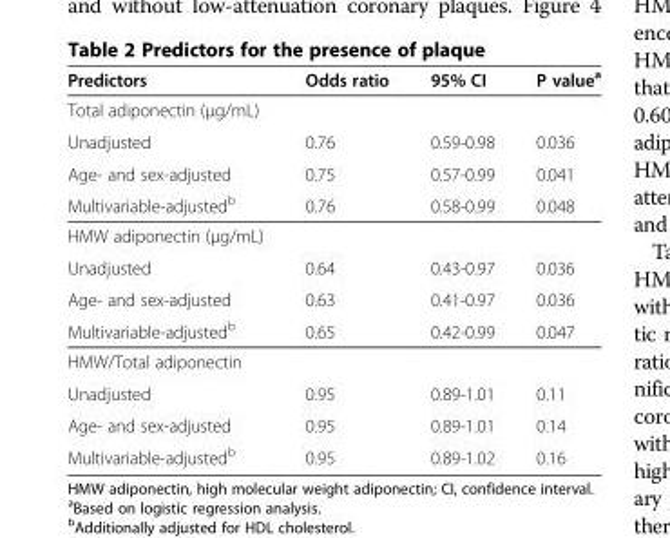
<table><thead><tr><td>Predictors</td><td>Odds ratio</td><td>95% CI</td><td>P value<sup>a</sup></td></tr></thead><tbody><tr><td colspan="4">Total adiponectin (μg/mL)</td></tr><tr><td>Unadjusted</td><td>0.76</td><td>0.59-0.98</td><td>0.036</td></tr><tr><td>Age- and sex-adjusted</td><td>0.75</td><td>0.57-0.99</td><td>0.041</td></tr><tr><td>Multivariable-adjusted<sup>b</sup></td><td>0.76</td><td>0.58-0.99</td><td>0.048</td></tr><tr><td colspan="4">HMW adiponectin (μg/mL)</td></tr><tr><td>Unadjusted</td><td>0.64</td><td>0.43-0.97</td><td>0.036</td></tr><tr><td>Age- and sex-adjusted</td><td>0.63</td><td>0.41-0.97</td><td>0.036</td></tr><tr><td>Multivariable-adjusted<sup>b</sup></td><td>0.65</td><td>0.42-0.99</td><td>0.047</td></tr><tr><td colspan="4">HMW/Total adiponectin</td></tr><tr><td>Unadjusted</td><td>0.95</td><td>0.89-1.01</td><td>0.11</td></tr><tr><td>Age- and sex-adjusted</td><td>0.95</td><td>0.89-1.01</td><td>0.14</td></tr><tr><td>Multivariable-adjusted<sup>b</sup></td><td>0.95</td><td>0.89-1.02</td><td>0.16</td></tr></tbody></table>